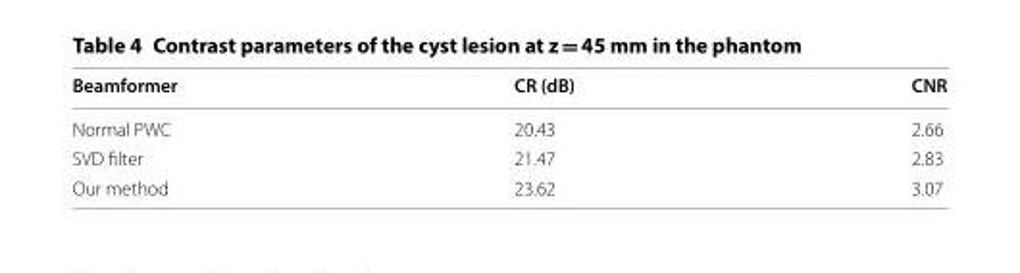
<table><thead><tr><td>Beamformer</td><td>CR (dB)</td><td>CNR</td></tr></thead><tbody><tr><td>Normal PWC</td><td>20.43</td><td>2.66</td></tr><tr><td>SVD filter</td><td>21.47</td><td>2.83</td></tr><tr><td>Our method</td><td>23.62</td><td>3.07</td></tr></tbody></table>